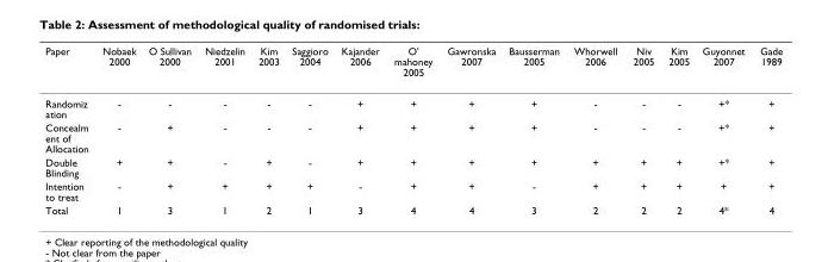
<table><thead><tr><td>Paper</td><td>Nobaek 2000</td><td>O Sullivan 2000</td><td>Niedzelin 2001</td><td>Kim 2003</td><td>Saggioro 2004</td><td>Kajander 2006</td><td>O&#x27; mahoney 2005</td><td>Gawronska 2007</td><td>Bausserman 2005</td><td>Whorwell 2006</td><td>Niv 2005</td><td>Kim 2005</td><td>Guyonnet 2007</td><td>Gade 1989</td></tr></thead><tbody><tr><td>Randomiz ation</td><td>-</td><td>-</td><td>-</td><td>-</td><td>-</td><td>+</td><td>+</td><td>+</td><td>+</td><td>-</td><td>-</td><td>-</td><td>+*</td><td>+</td></tr><tr><td>Concealm ent of Allocation</td><td>-</td><td>+</td><td>-</td><td>-</td><td>-</td><td>+</td><td>+</td><td>+</td><td>+</td><td>-</td><td>-</td><td>-</td><td>+*</td><td>+</td></tr><tr><td>Double Blinding</td><td>+</td><td>+</td><td>-</td><td>+</td><td>-</td><td>+</td><td>+</td><td>+</td><td>+</td><td>+</td><td>+</td><td>+</td><td>+*</td><td>+</td></tr><tr><td>Intention to treat</td><td>-</td><td>+</td><td>+</td><td>+</td><td>+</td><td>-</td><td>+</td><td>+</td><td>-</td><td>+</td><td>+</td><td>+</td><td>+</td><td>+</td></tr><tr><td>Total</td><td>1</td><td>3</td><td>1</td><td>2</td><td>1</td><td>3</td><td>4</td><td>4</td><td>3</td><td>2</td><td>2</td><td>2</td><td>4*</td><td>4</td></tr></tbody></table>